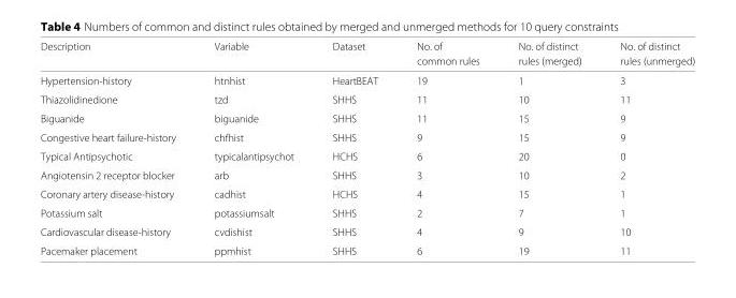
<table><thead><tr><td rowspan="2">Description</td><td rowspan="2">Variable</td><td rowspan="2">Dataset</td><td rowspan="2">No. of common rules</td><td rowspan="2">No. of distinct rules (merged)</td><td rowspan="2">No. of distinct rules (unmerged)</td></tr><tr></tr></thead><tbody><tr><td>Hypertension-history</td><td>htnhist</td><td>HeartBEAT</td><td>19</td><td>1</td><td>3</td></tr><tr><td>Thiazolidinedione</td><td>tzd</td><td>SHHS</td><td>11</td><td>10</td><td>11</td></tr><tr><td>Biguanide</td><td>biguanide</td><td>SHHS</td><td>11</td><td>15</td><td>9</td></tr><tr><td>Congestive heart failure-history</td><td>chfhist</td><td>SHHS</td><td>9</td><td>15</td><td>9</td></tr><tr><td>Typical Antipsychotic</td><td>typicalantipsychot</td><td>HCHS</td><td>6</td><td>20</td><td>0</td></tr><tr><td>Angiotensin 2 receptor blocker</td><td>arb</td><td>SHHS</td><td>3</td><td>10</td><td>2</td></tr><tr><td>Coronary artery disease-history</td><td>cadhist</td><td>HCHS</td><td>4</td><td>15</td><td>1</td></tr><tr><td>Potassium salt</td><td>potassiumsalt</td><td>SHHS</td><td>2</td><td>7</td><td>1</td></tr><tr><td>Cardiovascular disease-history</td><td>cvdishist</td><td>SHHS</td><td>4</td><td>9</td><td>10</td></tr><tr><td>Pacemaker placement</td><td>ppmhist</td><td>SHHS</td><td>6</td><td>19</td><td>11</td></tr></tbody></table>